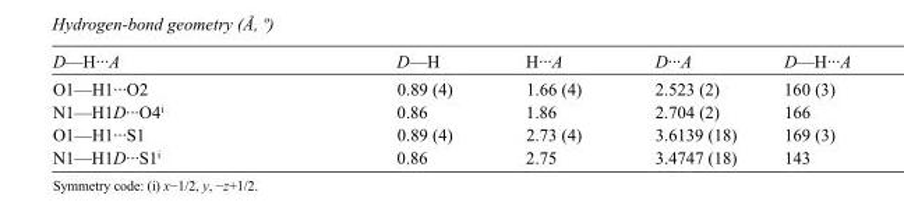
<table><tbody><tr><td>D—H···A</td><td>D—H</td><td>H···A</td><td>D···A</td><td>D—H···A</td></tr><tr><td>O1—H1···O2</td><td>0.89 (4)</td><td>1.66 (4)</td><td>2.523 (2)</td><td>160 (3)</td></tr><tr><td>N1—H1D···O4<sup>i</sup></td><td>0.86</td><td>1.86</td><td>2.704 (2)</td><td>166</td></tr><tr><td>O1—H1···S1</td><td>0.89 (4)</td><td>2.73 (4)</td><td>3.6139 (18)</td><td>169 (3)</td></tr><tr><td>N1—H1D···S1<sup>i</sup></td><td>0.86</td><td>2.75</td><td>3.4747 (18)</td><td>143</td></tr></tbody></table>